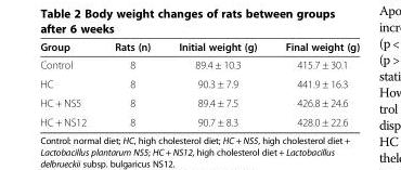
<table><thead><tr><td>Group</td><td>Rats (n)</td><td>Initial weight (g)</td><td>Final weight (g)</td></tr></thead><tbody><tr><td>Control</td><td>8</td><td>89.4 ± 10.3</td><td>415.7 ± 30.1</td></tr><tr><td>HC</td><td>8</td><td>90.3 ± 7.9</td><td>441.9 ± 16.3</td></tr><tr><td>HC + NS5</td><td>8</td><td>89.4 ± 7.5</td><td>426.8 ± 24.6</td></tr><tr><td>HC + NS12</td><td>8</td><td>90.7 ± 8.3</td><td>428.0 ± 22.6</td></tr></tbody></table>